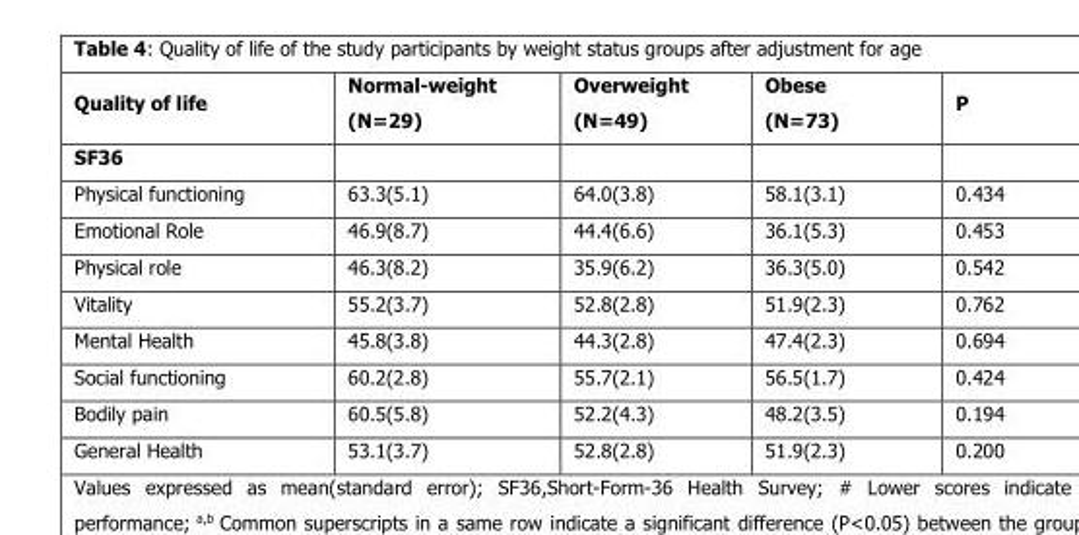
<table><thead><tr><td>Quality of life</td><td>Normal-weight (N=29)</td><td>Overweight (N=49)</td><td>Obese (N=73)</td><td>P</td></tr></thead><tbody><tr><td colspan="5">SF36</td></tr><tr><td>Physical functioning</td><td>63.3(5.1)</td><td>64.0(3.8)</td><td>58.1(3.1)</td><td>0.434</td></tr><tr><td>Emotional Role</td><td>46.9(8.7)</td><td>44.4(6.6)</td><td>36.1(5.3)</td><td>0.453</td></tr><tr><td>Physical role</td><td>46.3(8.2)</td><td>35.9(6.2)</td><td>36.3(5.0)</td><td>0.542</td></tr><tr><td>Vitality</td><td>55.2(3.7)</td><td>52.8(2.8)</td><td>51.9(2.3)</td><td>0.762</td></tr><tr><td>Mental Health</td><td>45.8(3.8)</td><td>44.3(2.8)</td><td>47.4(2.3)</td><td>0.694</td></tr><tr><td>Social functioning</td><td>60.2(2.8)</td><td>55.7(2.1)</td><td>56.5(1.7)</td><td>0.424</td></tr><tr><td>Bodily pain</td><td>60.5(5.8)</td><td>52.2(4.3)</td><td>48.2(3.5)</td><td>0.194</td></tr><tr><td>General Health</td><td>53.1(3.7)</td><td>52.8(2.8)</td><td>51.9(2.3)</td><td>0.200</td></tr></tbody></table>